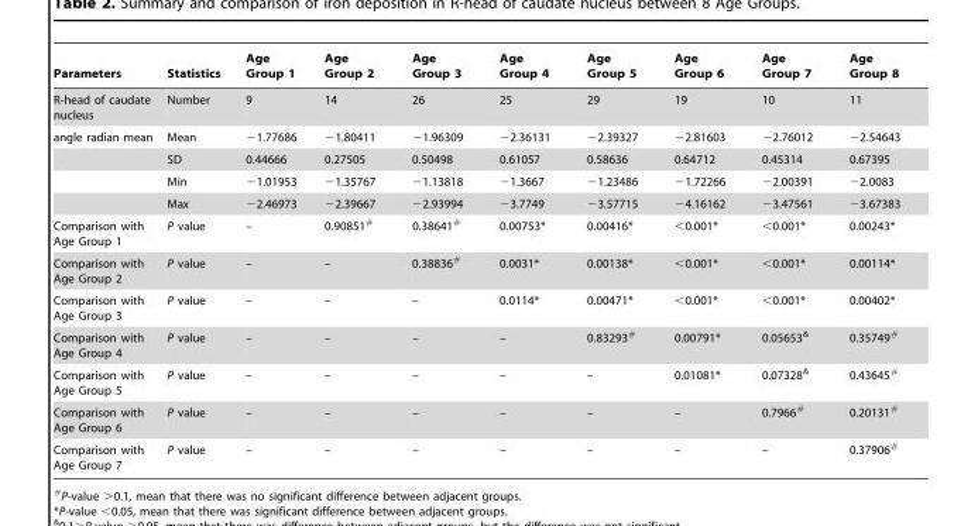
<table><thead><tr><td>Parameters</td><td>Statistics</td><td>Age Group 1</td><td>Age Group 2</td><td>Age Group 3</td><td>Age Group 4</td><td>Age Group 5</td><td>Age Group 6</td><td>Age Group 7</td><td>Age Group 8</td></tr></thead><tbody><tr><td>R-head of caudate nucleus</td><td>Number</td><td>9</td><td>14</td><td>26</td><td>25</td><td>29</td><td>19</td><td>10</td><td>11</td></tr><tr><td rowspan="4">angle radian mean</td><td>Mean</td><td>−1.77686</td><td>−1.80411</td><td>−1.96309</td><td>−2.36131</td><td>−2.39327</td><td>−2.81603</td><td>−2.76012</td><td>−2.54643</td></tr><tr><td>SD</td><td>0.44666</td><td>0.27505</td><td>0.50498</td><td>0.61057</td><td>0.58636</td><td>0.64712</td><td>0.45314</td><td>0.67395</td></tr><tr><td>Min</td><td>−1.01953</td><td>−1.35767</td><td>−1.13818</td><td>−1.3667</td><td>−1.23486</td><td>−1.72266</td><td>−2.00391</td><td>−2.0083</td></tr><tr><td>Max</td><td>−2.46973</td><td>−2.39667</td><td>−2.93994</td><td>−3.7749</td><td>−3.57715</td><td>−4.16162</td><td>−3.47561</td><td>−3.67383</td></tr><tr><td>Comparison with Age Group 1</td><td>P value</td><td>–</td><td>0.90851#</td><td>0.38641#</td><td>0.00753*</td><td>0.00416*</td><td>&lt;0.001*</td><td>&lt;0.001*</td><td>0.00243*</td></tr><tr><td>Comparison with Age Group 2</td><td>P value</td><td>–</td><td>–</td><td>0.38836#</td><td>0.0031*</td><td>0.00138*</td><td>&lt;0.001*</td><td>&lt;0.001*</td><td>0.00114*</td></tr><tr><td>Comparison with Age Group 3</td><td>P value</td><td>–</td><td>–</td><td>–</td><td>0.0114*</td><td>0.00471*</td><td>&lt;0.001*</td><td>&lt;0.001*</td><td>0.00402*</td></tr><tr><td>Comparison with Age Group 4</td><td>P value</td><td>–</td><td>–</td><td>–</td><td>–</td><td>0.83293#</td><td>0.00791*</td><td>0.05653&amp;</td><td>0.35749#</td></tr><tr><td>Comparison with Age Group 5</td><td>P value</td><td>–</td><td>–</td><td>–</td><td>–</td><td>–</td><td>0.01081*</td><td>0.07328&amp;</td><td>0.43645#</td></tr><tr><td>Comparison with Age Group 6</td><td>P value</td><td>–</td><td>–</td><td>–</td><td>–</td><td>–</td><td>–</td><td>0.7966#</td><td>0.20131#</td></tr><tr><td>Comparison with Age Group 7</td><td>P value</td><td>–</td><td>–</td><td>–</td><td>–</td><td>–</td><td>–</td><td>–</td><td>0.37906#</td></tr></tbody></table>